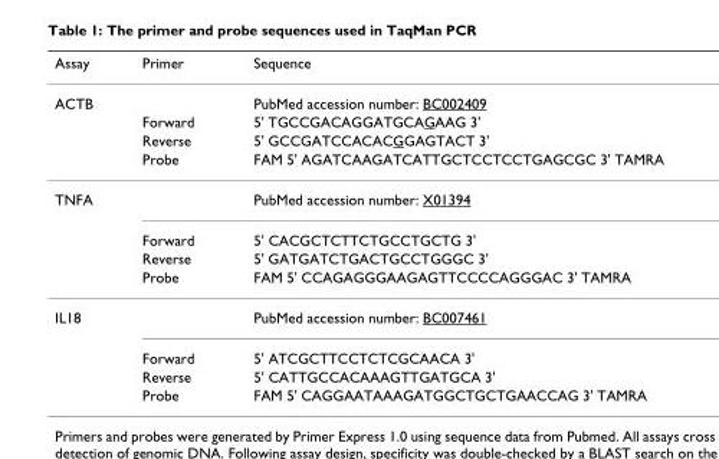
<table><thead><tr><td>Assay</td><td>Primer</td><td>Sequence</td></tr></thead><tbody><tr><td rowspan="4">ACTB</td><td></td><td>PubMed accession number: BC002409</td></tr><tr><td>Forward</td><td>5&#x27; TGCCGACAGGATGCAGAAG 3&#x27;</td></tr><tr><td>Reverse</td><td>5&#x27; GCCGATCCACACGGAGTACT 3&#x27;</td></tr><tr><td>Probe</td><td>FAM 5&#x27; AGATCAAGATCATTGCTCCTCCTGAGCGC 3&#x27; TAMRA</td></tr><tr><td rowspan="4">TNFA</td><td></td><td>PubMed accession number: X01394</td></tr><tr><td>Forward</td><td>5&#x27; CACGCTCTTCTGCCTGCTG 3&#x27;</td></tr><tr><td>Reverse</td><td>5&#x27; GATGATCTGACTGCCTGGGC 3&#x27;</td></tr><tr><td>Probe</td><td>FAM 5&#x27; CCAGAGGGAAGAGTTCCCCAGGGAC 3&#x27; TAMRA</td></tr><tr><td rowspan="4">IL18</td><td></td><td>PubMed accession number: BC007461</td></tr><tr><td>Forward</td><td>5&#x27; ATCGCTTCCTCTCGCAACA 3&#x27;</td></tr><tr><td>Reverse</td><td>5&#x27; CATTGCCACAAAGTTGATGCA 3&#x27;</td></tr><tr><td>Probe</td><td>FAM 5&#x27; CAGGAATAAAGATGGCTGCTGAACCAG 3&#x27; TAMRA</td></tr></tbody></table>